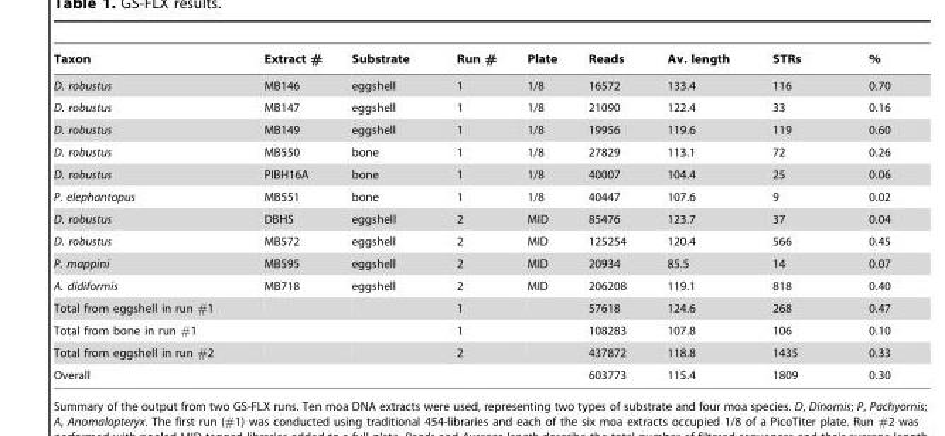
<table><thead><tr><td>Taxon</td><td>Extract #</td><td>Substrate</td><td>Run #</td><td>Plate</td><td>Reads</td><td>Av. length</td><td>STRs</td><td>%</td></tr></thead><tbody><tr><td>D. robustus</td><td>MB146</td><td>eggshell</td><td>1</td><td>1/8</td><td>16572</td><td>133.4</td><td>116</td><td>0.70</td></tr><tr><td>D. robustus</td><td>MB147</td><td>eggshell</td><td>1</td><td>1/8</td><td>21090</td><td>122.4</td><td>33</td><td>0.16</td></tr><tr><td>D. robustus</td><td>MB149</td><td>eggshell</td><td>1</td><td>1/8</td><td>19956</td><td>119.6</td><td>119</td><td>0.60</td></tr><tr><td>D. robustus</td><td>MB550</td><td>bone</td><td>1</td><td>1/8</td><td>27829</td><td>113.1</td><td>72</td><td>0.26</td></tr><tr><td>D. robustus</td><td>PIBH16A</td><td>bone</td><td>1</td><td>1/8</td><td>40007</td><td>104.4</td><td>25</td><td>0.06</td></tr><tr><td>P. elephantopus</td><td>MB551</td><td>bone</td><td>1</td><td>1/8</td><td>40447</td><td>107.6</td><td>9</td><td>0.02</td></tr><tr><td>D. robustus</td><td>DBHS</td><td>eggshell</td><td>2</td><td>MID</td><td>85476</td><td>123.7</td><td>37</td><td>0.04</td></tr><tr><td>D. robustus</td><td>MB572</td><td>eggshell</td><td>2</td><td>MID</td><td>125254</td><td>120.4</td><td>566</td><td>0.45</td></tr><tr><td>P. mappini</td><td>MB595</td><td>eggshell</td><td>2</td><td>MID</td><td>20934</td><td>85.5</td><td>14</td><td>0.07</td></tr><tr><td>A. didiformis</td><td>MB718</td><td>eggshell</td><td>2</td><td>MID</td><td>206208</td><td>119.1</td><td>818</td><td>0.40</td></tr><tr><td>Total from eggshell in run #1</td><td></td><td></td><td>1</td><td></td><td>57618</td><td>124.6</td><td>268</td><td>0.47</td></tr><tr><td>Total from bone in run #1</td><td></td><td></td><td>1</td><td></td><td>108283</td><td>107.8</td><td>106</td><td>0.10</td></tr><tr><td>Total from eggshell in run #2</td><td></td><td></td><td>2</td><td></td><td>437872</td><td>118.8</td><td>1435</td><td>0.33</td></tr><tr><td colspan="3">Overall</td><td></td><td></td><td>603773</td><td>115.4</td><td>1809</td><td>0.30</td></tr></tbody></table>